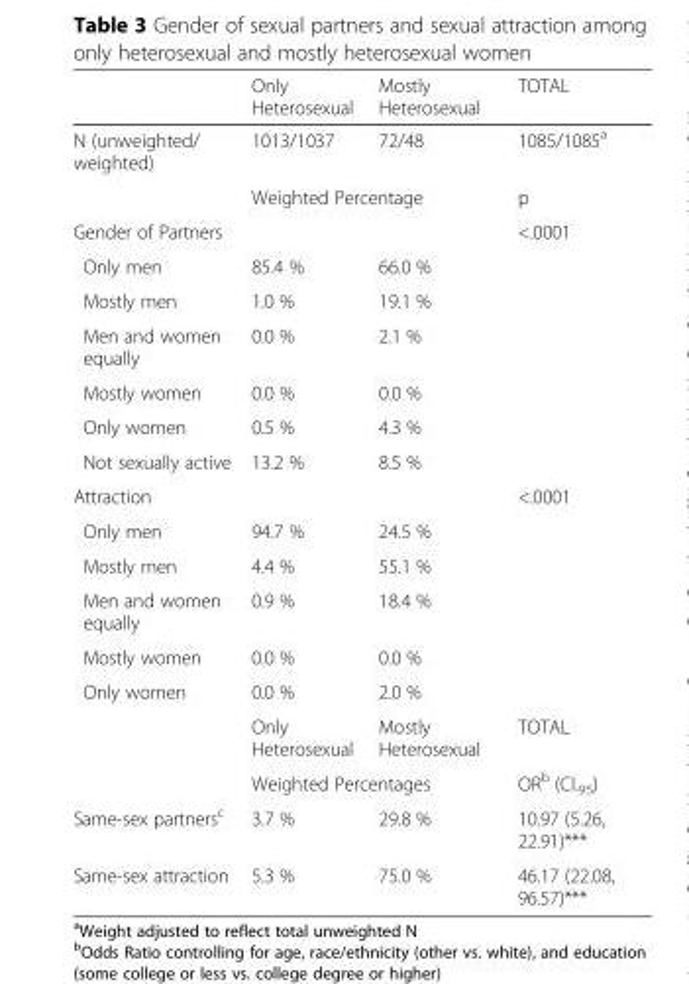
<table><thead><tr><td></td><td>Only Heterosexual</td><td>Mostly Heterosexual</td><td>TOTAL</td></tr></thead><tbody><tr><td rowspan="2">N (unweighted/ weighted)</td><td>1013/1037</td><td>72/48</td><td>1085/1085<sup>a</sup></td></tr><tr><td colspan="2">Weighted Percentage</td><td>p</td></tr><tr><td>Gender of Partners</td><td></td><td></td><td>&lt;.0001</td></tr><tr><td>Only men</td><td>85.4 %</td><td>66.0 %</td><td></td></tr><tr><td>Mostly men</td><td>1.0 %</td><td>19.1 %</td><td></td></tr><tr><td>Men and women equally</td><td>0.0 %</td><td>2.1 %</td><td></td></tr><tr><td>Mostly women</td><td>0.0 %</td><td>0.0 %</td><td></td></tr><tr><td>Only women</td><td>0.5 %</td><td>4.3 %</td><td></td></tr><tr><td>Not sexually active</td><td>13.2 %</td><td>8.5 %</td><td></td></tr><tr><td>Attraction</td><td></td><td></td><td>&lt;.0001</td></tr><tr><td>Only men</td><td>94.7 %</td><td>24.5 %</td><td></td></tr><tr><td>Mostly men</td><td>4.4 %</td><td>55.1 %</td><td></td></tr><tr><td>Men and women equally</td><td>0.9 %</td><td>18.4 %</td><td></td></tr><tr><td>Mostly women</td><td>0.0 %</td><td>0.0 %</td><td></td></tr><tr><td rowspan="3">Only women</td><td>0.0 %</td><td>2.0 %</td><td></td></tr><tr><td>Only Heterosexual</td><td>Mostly Heterosexual</td><td>TOTAL</td></tr><tr><td colspan="2">Weighted Percentages</td><td>OR<sup>b</sup> (CI.<sub>95</sub>)</td></tr><tr><td>Same-sex partners<sup>c</sup></td><td>3.7 %</td><td>29.8 %</td><td>10.97 (5.26, 22.91)***</td></tr><tr><td>Same-sex attraction</td><td>5.3 %</td><td>75.0 %</td><td>46.17 (22.08, 96.57)***</td></tr></tbody></table>